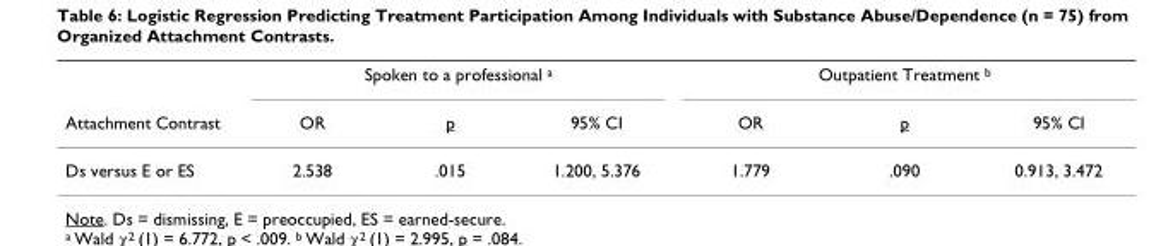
<table><thead><tr><td rowspan="2">Attachment Contrast</td><td colspan="3">Spoken to a professional <sup>a</sup></td><td colspan="3">Outpatient Treatment <sup>b</sup></td></tr><tr><td>OR</td><td>p</td><td>95% CI</td><td>OR</td><td>p</td><td>95% CI</td></tr></thead><tbody><tr><td>Ds versus E or ES</td><td>2.538</td><td>.015</td><td>1.200, 5.376</td><td>1.779</td><td>.090</td><td>0.913, 3.472</td></tr></tbody></table>